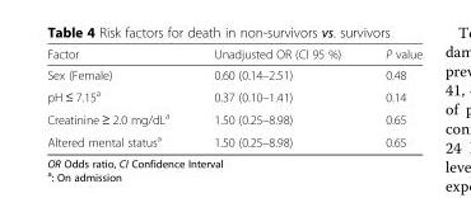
<table><thead><tr><td>Factor</td><td>Unadjusted OR (CI 95 %)</td><td>P value</td></tr></thead><tbody><tr><td>Sex (Female)</td><td>0.60 (0.14–2.51)</td><td>0.48</td></tr><tr><td>pH ≤ 7.15<sup>a</sup></td><td>0.37 (0.10–1.41)</td><td>0.14</td></tr><tr><td>Creatinine ≥ 2.0 mg/dL<sup>a</sup></td><td>1.50 (0.25–8.98)</td><td>0.65</td></tr><tr><td>Altered mental status<sup>a</sup></td><td>1.50 (0.25–8.98)</td><td>0.65</td></tr></tbody></table>